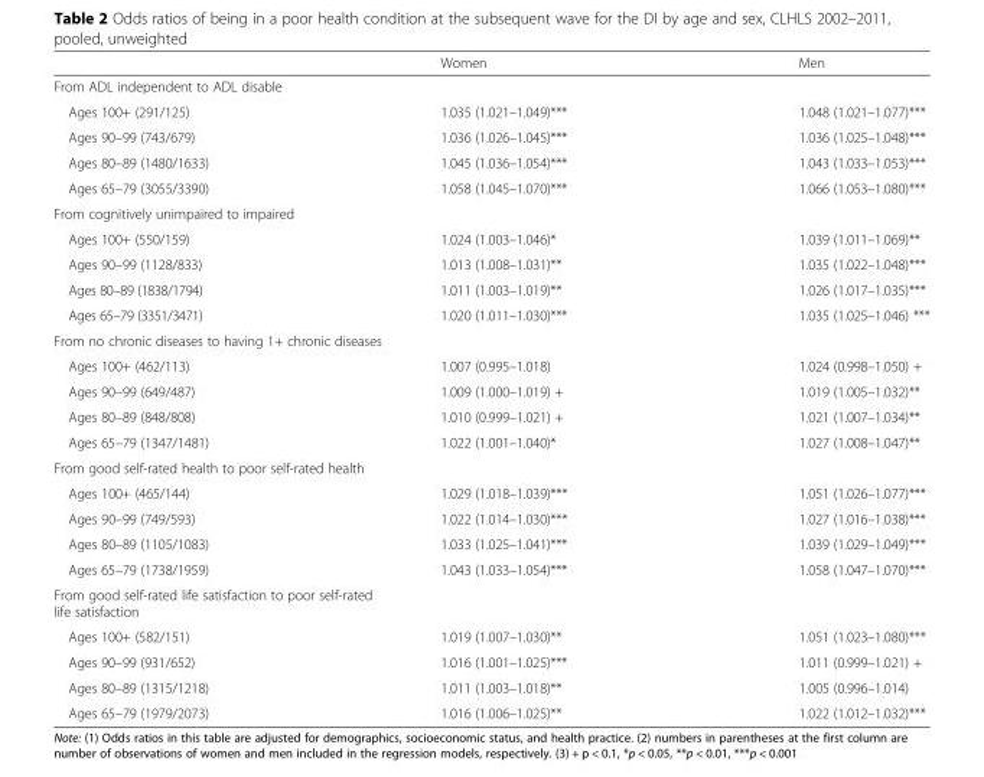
<table><thead><tr><td></td><td>Women</td><td>Men</td></tr></thead><tbody><tr><td colspan="3">From ADL independent to ADL disable</td></tr><tr><td>Ages 100+ (291/125)</td><td>1.035 (1.021–1.049)***</td><td>1.048 (1.021–1.077)***</td></tr><tr><td>Ages 90–99 (743/679)</td><td>1.036 (1.026–1.045)***</td><td>1.036 (1.025–1.048)***</td></tr><tr><td>Ages 80–89 (1480/1633)</td><td>1.045 (1.036–1.054)***</td><td>1.043 (1.033–1.053)***</td></tr><tr><td>Ages 65–79 (3055/3390)</td><td>1.058 (1.045–1.070)***</td><td>1.066 (1.053–1.080)***</td></tr><tr><td colspan="3">From cognitively unimpaired to impaired</td></tr><tr><td>Ages 100+ (550/159)</td><td>1.024 (1.003–1.046)*</td><td>1.039 (1.011–1.069)**</td></tr><tr><td>Ages 90–99 (1128/833)</td><td>1.013 (1.008–1.031)**</td><td>1.035 (1.022–1.048)***</td></tr><tr><td>Ages 80–89 (1838/1794)</td><td>1.011 (1.003–1.019)**</td><td>1.026 (1.017–1.035)***</td></tr><tr><td>Ages 65–79 (3351/3471)</td><td>1.020 (1.011–1.030)***</td><td>1.035 (1.025–1.046) ***</td></tr><tr><td colspan="3">From no chronic diseases to having 1+ chronic diseases</td></tr><tr><td>Ages 100+ (462/113)</td><td>1.007 (0.995–1.018)</td><td>1.024 (0.998–1.050) +</td></tr><tr><td>Ages 90–99 (649/487)</td><td>1.009 (1.000–1.019) +</td><td>1.019 (1.005–1.032)**</td></tr><tr><td>Ages 80–89 (848/808)</td><td>1.010 (0.999–1.021) +</td><td>1.021 (1.007–1.034)**</td></tr><tr><td>Ages 65–79 (1347/1481)</td><td>1.022 (1.001–1.040)*</td><td>1.027 (1.008–1.047)**</td></tr><tr><td colspan="3">From good self-rated health to poor self-rated health</td></tr><tr><td>Ages 100+ (465/144)</td><td>1.029 (1.018–1.039)***</td><td>1.051 (1.026–1.077)***</td></tr><tr><td>Ages 90–99 (749/593)</td><td>1.022 (1.014–1.030)***</td><td>1.027 (1.016–1.038)***</td></tr><tr><td>Ages 80–89 (1105/1083)</td><td>1.033 (1.025–1.041)***</td><td>1.039 (1.029–1.049)***</td></tr><tr><td>Ages 65–79 (1738/1959)</td><td>1.043 (1.033–1.054)***</td><td>1.058 (1.047–1.070)***</td></tr><tr><td colspan="3">From good self-rated life satisfaction to poor self-rated life satisfaction</td></tr><tr><td>Ages 100+ (582/151)</td><td>1.019 (1.007–1.030)**</td><td>1.051 (1.023–1.080)***</td></tr><tr><td>Ages 90–99 (931/652)</td><td>1.016 (1.001–1.025)***</td><td>1.011 (0.999–1.021) +</td></tr><tr><td>Ages 80–89 (1315/1218)</td><td>1.011 (1.003–1.018)**</td><td>1.005 (0.996–1.014)</td></tr><tr><td>Ages 65–79 (1979/2073)</td><td>1.016 (1.006–1.025)**</td><td>1.022 (1.012–1.032)***</td></tr></tbody></table>